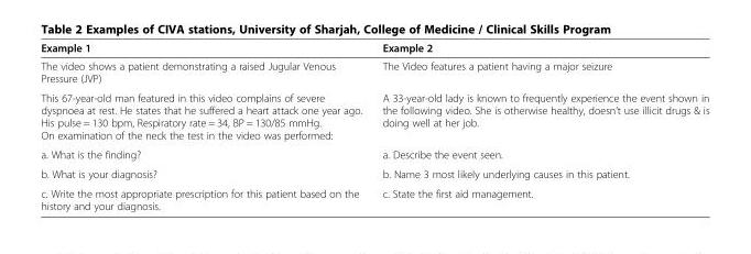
<table><thead><tr><td>Example 1</td><td>Example 2</td></tr></thead><tbody><tr><td>The video shows a patient demonstrating a raised Jugular Venous Pressure (JVP)</td><td>The Video features a patient having a major seizure</td></tr><tr><td>This 67-year-old man featured in this video complains of severe dyspnoea at rest. He states that he suffered a heart attack one year ago. His pulse = 130 bpm, Respiratory rate = 34, BP = 130/85 mmHg. On examination of the neck the test in the video was performed:</td><td>A 33-year-old lady is known to frequently experience the event shown in the following video. She is otherwise healthy, doesn’t use illicit drugs &amp; is doing well at her job.</td></tr><tr><td>a. What is the finding?</td><td>a. Describe the event seen.</td></tr><tr><td>b. What is your diagnosis?</td><td>b. Name 3 most likely underlying causes in this patient.</td></tr><tr><td>c. Write the most appropriate prescription for this patient based on the history and your diagnosis.</td><td>c. State the first aid management.</td></tr></tbody></table>